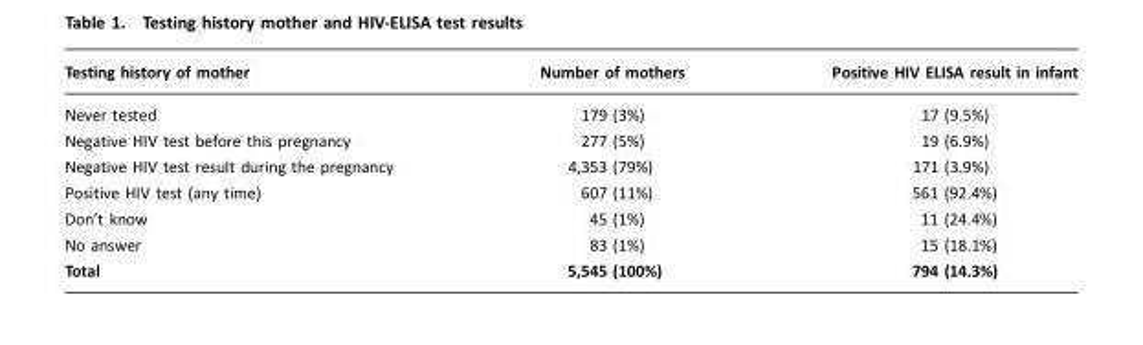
<table><thead><tr><td>Testing history of mother</td><td>Number of mothers</td><td>Positive HIV ELISA result in infant</td></tr></thead><tbody><tr><td>Never tested</td><td>179 (3%)</td><td>17 (9.5%)</td></tr><tr><td>Negative HIV test before this pregnancy</td><td>277 (5%)</td><td>19 (6.9%)</td></tr><tr><td>Negative HIV test result during the pregnancy</td><td>4,353 (79%)</td><td>171 (3.9%)</td></tr><tr><td>Positive HIV test (any time)</td><td>607 (11%)</td><td>561 (92.4%)</td></tr><tr><td>Don’t know</td><td>45 (1%)</td><td>11 (24.4%)</td></tr><tr><td>No answer</td><td>83 (1%)</td><td>15 (18.1%)</td></tr><tr><td>Total</td><td>5,545 (100%)</td><td>794 (14.3%)</td></tr></tbody></table>